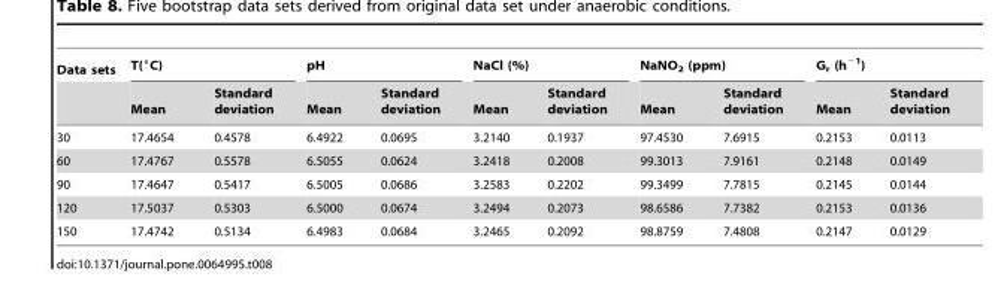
<table><thead><tr><td rowspan="2">Data sets</td><td colspan="2">T(°C)</td><td colspan="2">pH</td><td colspan="2">NaCl (%)</td><td colspan="2">NaNO<sub>2</sub> (ppm)</td><td colspan="2">G<sub>r</sub> (h<sup>−1</sup>)</td></tr><tr><td>Mean</td><td>Standard deviation</td><td>Mean</td><td>Standard deviation</td><td>Mean</td><td>Standard deviation</td><td>Mean</td><td>Standard deviation</td><td>Mean</td><td>Standard deviation</td></tr></thead><tbody><tr><td>30</td><td>17.4654</td><td>0.4578</td><td>6.4922</td><td>0.0695</td><td>3.2140</td><td>0.1937</td><td>97.4530</td><td>7.6915</td><td>0.2153</td><td>0.0113</td></tr><tr><td>60</td><td>17.4767</td><td>0.5578</td><td>6.5055</td><td>0.0624</td><td>3.2418</td><td>0.2008</td><td>99.3013</td><td>7.9161</td><td>0.2148</td><td>0.0149</td></tr><tr><td>90</td><td>17.4647</td><td>0.5417</td><td>6.5005</td><td>0.0686</td><td>3.2583</td><td>0.2202</td><td>99.3499</td><td>7.7815</td><td>0.2145</td><td>0.0144</td></tr><tr><td>120</td><td>17.5037</td><td>0.5303</td><td>6.5000</td><td>0.0674</td><td>3.2494</td><td>0.2073</td><td>98.6586</td><td>7.7382</td><td>0.2153</td><td>0.0136</td></tr><tr><td>150</td><td>17.4742</td><td>0.5134</td><td>6.4983</td><td>0.0684</td><td>3.2465</td><td>0.2092</td><td>98.8759</td><td>7.4808</td><td>0.2147</td><td>0.0129</td></tr></tbody></table>